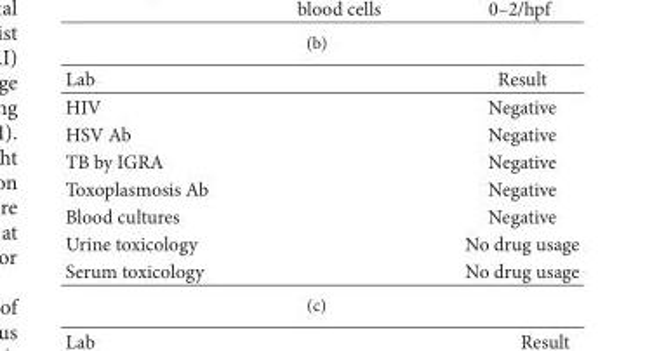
<table><thead><tr><td>Lab</td><td>Result</td></tr></thead><tbody><tr><td>HIV</td><td>Negative</td></tr><tr><td>HSV Ab</td><td>Negative</td></tr><tr><td>TB by IGRA</td><td>Negative</td></tr><tr><td>Toxoplasmosis Ab</td><td>Negative</td></tr><tr><td>Blood cultures</td><td>Negative</td></tr><tr><td>Urine toxicology</td><td>No drug usage</td></tr><tr><td>Serum toxicology</td><td>No drug usage</td></tr></tbody></table>